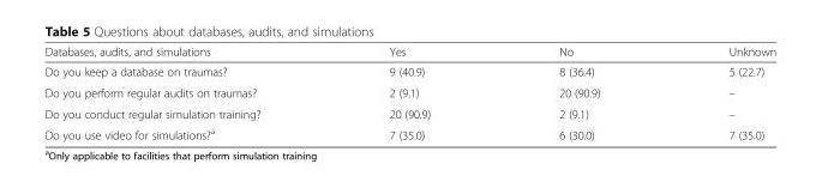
<table><thead><tr><td>Databases, audits, and simulations</td><td>Yes</td><td>No</td><td>Unknown</td></tr></thead><tbody><tr><td>Do you keep a database on traumas?</td><td>9 (40.9)</td><td>8 (36.4)</td><td>5 (22.7)</td></tr><tr><td>Do you perform regular audits on traumas?</td><td>2 (9.1)</td><td>20 (90.9)</td><td>–</td></tr><tr><td>Do you conduct regular simulation training?</td><td>20 (90.9)</td><td>2 (9.1)</td><td>–</td></tr><tr><td>Do you use video for simulations?<sup>a</sup></td><td>7 (35.0)</td><td>6 (30.0)</td><td>7 (35.0)</td></tr></tbody></table>